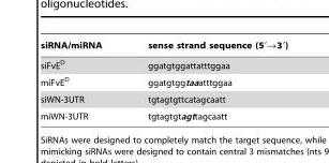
<table><thead><tr><td>siRNA/miRNA</td><td>sense strand sequence (5′→3′)</td></tr></thead><tbody><tr><td>siFvE<sup>D</sup></td><td>ggatgtggattatttggaa</td></tr><tr><td>miFvE<sup>D</sup></td><td>ggatgtggtaaatttggaa</td></tr><tr><td>siWN-3UTR</td><td>tgtagtgttcatagcaatt</td></tr><tr><td>miWN-3UTR</td><td>tgtagtgtagttagcaatt</td></tr></tbody></table>